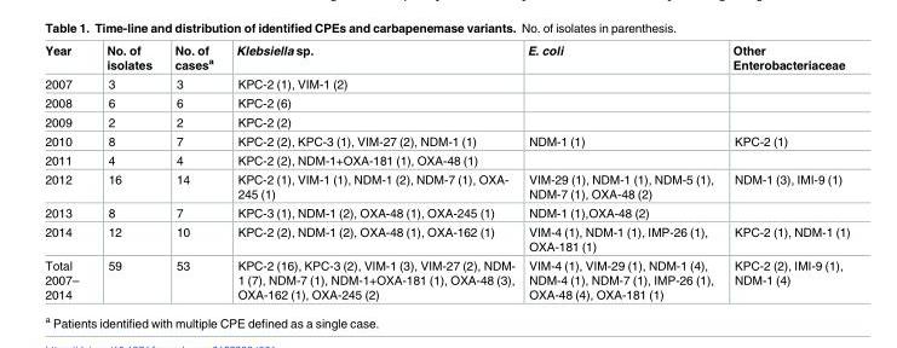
<table><thead><tr><td>Year</td><td>No. of isolates</td><td>No. of cases<sup>a</sup></td><td>Klebsiella sp.</td><td>E. coli</td><td>Other Enterobacteriaceae</td></tr></thead><tbody><tr><td>2007</td><td>3</td><td>3</td><td>KPC-2 (1), VIM-1 (2)</td><td></td><td></td></tr><tr><td>2008</td><td>6</td><td>6</td><td>KPC-2 (6)</td><td></td><td></td></tr><tr><td>2009</td><td>2</td><td>2</td><td>KPC-2 (2)</td><td></td><td></td></tr><tr><td>2010</td><td>8</td><td>7</td><td>KPC-2 (2), KPC-3 (1), VIM-27 (2), NDM-1 (1)</td><td>NDM-1 (1)</td><td>KPC-2 (1)</td></tr><tr><td>2011</td><td>4</td><td>4</td><td>KPC-2 (2), NDM-1+OXA-181 (1), OXA-48 (1)</td><td></td><td></td></tr><tr><td>2012</td><td>16</td><td>14</td><td>KPC-2 (1), VIM-1 (1), NDM-1 (2), NDM-7 (1), OXA- 245 (1)</td><td>VIM-29 (1), NDM-1 (1), NDM-5 (1), NDM-7 (1), OXA-48 (2)</td><td>NDM-1 (3), IMI-9 (1)</td></tr><tr><td>2013</td><td>8</td><td>7</td><td>KPC-3 (1), NDM-1 (2), OXA-48 (1), OXA-245 (1)</td><td>NDM-1 (1),OXA-48 (2)</td><td></td></tr><tr><td>2014</td><td>12</td><td>10</td><td>KPC-2 (2), NDM-1 (2), OXA-48 (1), OXA-162 (1)</td><td>VIM-4 (1), NDM-1 (1), IMP-26 (1), OXA-181 (1)</td><td>KPC-2 (1), NDM-1 (1)</td></tr><tr><td>Total 2007– 2014</td><td>59</td><td>53</td><td>KPC-2 (16), KPC-3 (2), VIM-1 (3), VIM-27 (2), NDM- 1 (7), NDM-7 (1), NDM-1+OXA-181 (1), OXA-48 (3), OXA-162 (1), OXA-245 (2)</td><td>VIM-4 (1), VIM-29 (1), NDM-1 (4), NDM-4 (1), NDM-7 (1), IMP-26 (1), OXA-48 (4), OXA-181 (1)</td><td>KPC-2 (2), IMI-9 (1), NDM-1 (4)</td></tr></tbody></table>